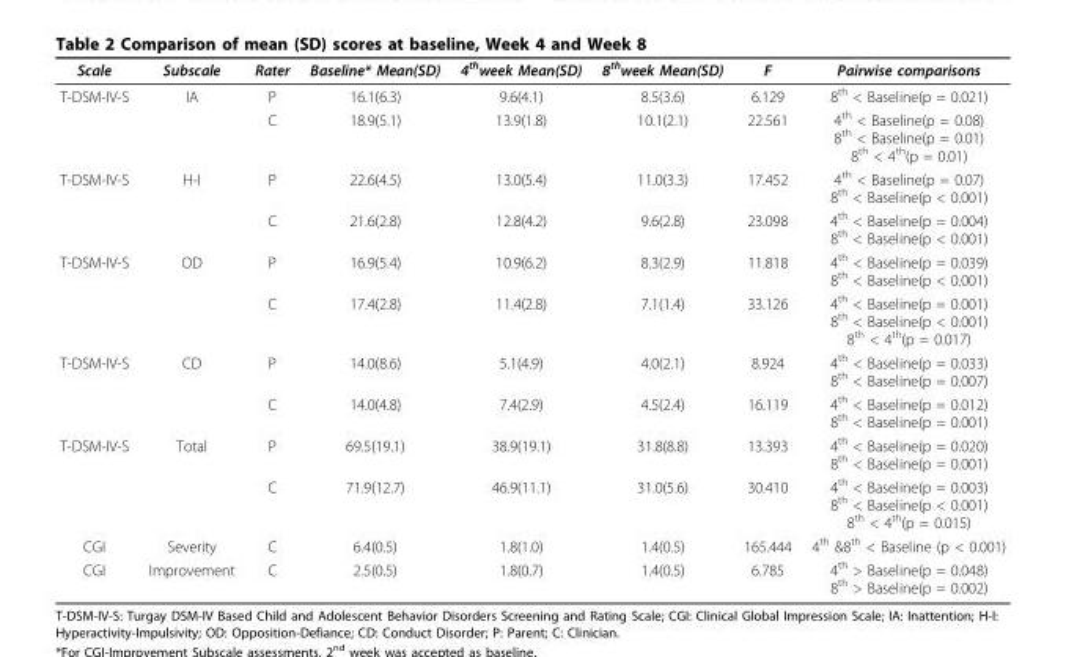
<table><thead><tr><td>Scale</td><td>Subscale</td><td>Rater</td><td>Baseline* Mean(SD)</td><td>4<sup>th</sup>week Mean(SD)</td><td>8<sup>th</sup>week Mean(SD)</td><td>F</td><td>Pairwise comparisons</td></tr></thead><tbody><tr><td rowspan="2">T-DSM-IV-S</td><td>IA</td><td>P</td><td>16.1(6.3)</td><td>9.6(4.1)</td><td>8.5(3.6)</td><td>6.129</td><td>8<sup>th</sup> &lt; Baseline(p = 0.021)</td></tr><tr><td></td><td>C</td><td>18.9(5.1)</td><td>13.9(1.8)</td><td>10.1(2.1)</td><td>22.561</td><td>4<sup>th</sup> &lt; Baseline(p = 0.08) 8<sup>th</sup> &lt; Baseline(p = 0.01) 8<sup>th</sup> &lt; 4<sup>th</sup>(p = 0.01)</td></tr><tr><td rowspan="2">T-DSM-IV-S</td><td>H-I</td><td>P</td><td>22.6(4.5)</td><td>13.0(5.4)</td><td>11.0(3.3)</td><td>17.452</td><td>4<sup>th</sup> &lt; Baseline(p = 0.07) 8<sup>th</sup> &lt; Baseline(p &lt; 0.001)</td></tr><tr><td></td><td>C</td><td>21.6(2.8)</td><td>12.8(4.2)</td><td>9.6(2.8)</td><td>23.098</td><td>4<sup>th</sup> &lt; Baseline(p = 0.004) 8<sup>th</sup> &lt; Baseline(p &lt; 0.001)</td></tr><tr><td rowspan="2">T-DSM-IV-S</td><td>OD</td><td>P</td><td>16.9(5.4)</td><td>10.9(6.2)</td><td>8.3(2.9)</td><td>11.818</td><td>4<sup>th</sup> &lt; Baseline(p = 0.039) 8<sup>th</sup> &lt; Baseline(p &lt; 0.001)</td></tr><tr><td></td><td>C</td><td>17.4(2.8)</td><td>11.4(2.8)</td><td>7.1(1.4)</td><td>33.126</td><td>4<sup>th</sup> &lt; Baseline(p = 0.001) 8<sup>th</sup> &lt; Baseline(p &lt; 0.001) 8<sup>th</sup> &lt; 4<sup>th</sup>(p = 0.017)</td></tr><tr><td rowspan="2">T-DSM-IV-S</td><td>CD</td><td>P</td><td>14.0(8.6)</td><td>5.1(4.9)</td><td>4.0(2.1)</td><td>8.924</td><td>4<sup>th</sup> &lt; Baseline(p = 0.033) 8<sup>th</sup> &lt; Baseline(p = 0.007)</td></tr><tr><td></td><td>C</td><td>14.0(4.8)</td><td>7.4(2.9)</td><td>4.5(2.4)</td><td>16.119</td><td>4<sup>th</sup> &lt; Baseline(p = 0.012) 8<sup>th</sup> &lt; Baseline(p = 0.001)</td></tr><tr><td rowspan="2">T-DSM-IV-S</td><td>Total</td><td>P</td><td>69.5(19.1)</td><td>38.9(19.1)</td><td>31.8(8.8)</td><td>13.393</td><td>4<sup>th</sup> &lt; Baseline(p = 0.020) 8<sup>th</sup> &lt; Baseline(p = 0.001)</td></tr><tr><td></td><td>C</td><td>71.9(12.7)</td><td>46.9(11.1)</td><td>31.0(5.6)</td><td>30.410</td><td>4<sup>th</sup> &lt; Baseline(p = 0.003) 8<sup>th</sup> &lt; Baseline(p &lt; 0.001) 8<sup>th</sup> &lt; 4<sup>th</sup>(p = 0.015)</td></tr><tr><td>CGI</td><td>Severity</td><td>C</td><td>6.4(0.5)</td><td>1.8(1.0)</td><td>1.4(0.5)</td><td>165.444</td><td>4<sup>th</sup> &amp;8<sup>th</sup> &lt; Baseline (p &lt; 0.001)</td></tr><tr><td>CGI</td><td>Improvement</td><td>C</td><td>2.5(0.5)</td><td>1.8(0.7)</td><td>1.4(0.5)</td><td>6.785</td><td>4<sup>th</sup> &gt; Baseline(p = 0.048) 8<sup>th</sup> &gt; Baseline(p = 0.002)</td></tr></tbody></table>